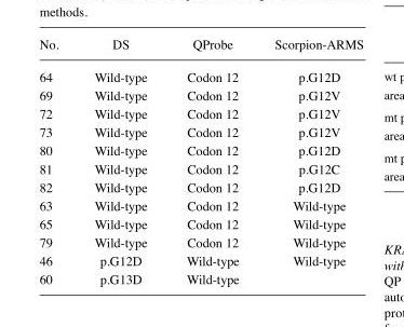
<table><thead><tr><td>No.</td><td>DS</td><td>QProbe</td><td>Scorpion-ARMS</td></tr></thead><tbody><tr><td>64</td><td>Wild-type</td><td>Codon 12</td><td>p.G12D</td></tr><tr><td>69</td><td>Wild-type</td><td>Codon 12</td><td>p.G12V</td></tr><tr><td>72</td><td>Wild-type</td><td>Codon 12</td><td>p.G12V</td></tr><tr><td>73</td><td>Wild-type</td><td>Codon 12</td><td>p.G12V</td></tr><tr><td>80</td><td>Wild-type</td><td>Codon 12</td><td>p.G12D</td></tr><tr><td>81</td><td>Wild-type</td><td>Codon 12</td><td>p.G12C</td></tr><tr><td>82</td><td>Wild-type</td><td>Codon 12</td><td>p.G12D</td></tr><tr><td>63</td><td>Wild-type</td><td>Codon 12</td><td>Wild-type</td></tr><tr><td>65</td><td>Wild-type</td><td>Codon 12</td><td>Wild-type</td></tr><tr><td>79</td><td>Wild-type</td><td>Codon 12</td><td>Wild-type</td></tr><tr><td>46</td><td>p.G12D</td><td>Wild-type</td><td>Wild-type</td></tr><tr><td>60</td><td>p.G13D</td><td>Wild-type</td><td></td></tr></tbody></table>